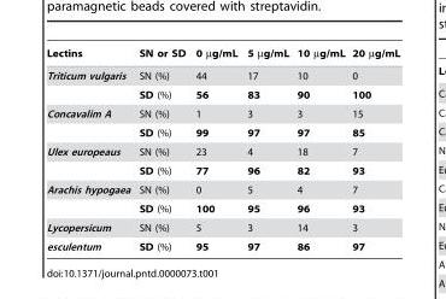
<table><thead><tr><td>Lectins</td><td>SN or SD</td><td>0 µg/mL</td><td>5 µg/mL</td><td>10 µg/mL</td><td>20 µg/mL</td></tr></thead><tbody><tr><td rowspan="2">Triticum vulgaris</td><td>SN (%)</td><td>44</td><td>17</td><td>10</td><td>0</td></tr><tr><td>SD (%)</td><td>56</td><td>83</td><td>90</td><td>100</td></tr><tr><td rowspan="2">Concavalim A</td><td>SN (%)</td><td>1</td><td>3</td><td>3</td><td>15</td></tr><tr><td>SD (%)</td><td>99</td><td>97</td><td>97</td><td>85</td></tr><tr><td rowspan="2">Ulex europeaus</td><td>SN (%)</td><td>23</td><td>4</td><td>18</td><td>7</td></tr><tr><td>SD (%)</td><td>77</td><td>96</td><td>82</td><td>93</td></tr><tr><td rowspan="2">Arachis hypogaea</td><td>SN (%)</td><td>0</td><td>5</td><td>4</td><td>7</td></tr><tr><td>SD (%)</td><td>100</td><td>95</td><td>96</td><td>93</td></tr><tr><td>Lycopersicum</td><td>SN (%)</td><td>5</td><td>3</td><td>14</td><td>3</td></tr><tr><td>esculentum</td><td>SD (%)</td><td>95</td><td>97</td><td>86</td><td>97</td></tr></tbody></table>